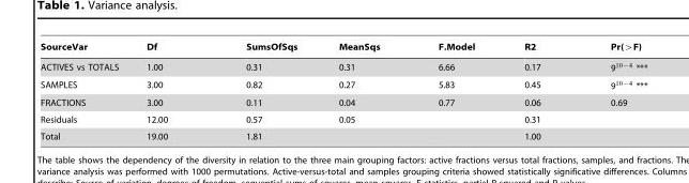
<table><thead><tr><td>SourceVar</td><td>Df</td><td>SumsOfSqs</td><td>MeanSqs</td><td>F.Model</td><td>R2</td><td>Pr(wF)</td></tr></thead><tbody><tr><td>ACTIVES vs TOTALS</td><td>1.00</td><td>0.31</td><td>0.31</td><td>6.66</td><td>0.17</td><td>910{4 ***</td></tr><tr><td>SAMPLES</td><td>3.00</td><td>0.82</td><td>0.27</td><td>5.83</td><td>0.45</td><td>910{4 ***</td></tr><tr><td>FRACTIONS</td><td>3.00</td><td>0.11</td><td>0.04</td><td>0.77</td><td>0.06</td><td>0.69</td></tr><tr><td>Residuals</td><td>12.00</td><td>0.57</td><td>0.05</td><td></td><td>0.31</td><td></td></tr><tr><td>Total</td><td>19.00</td><td>1.81</td><td></td><td></td><td>1.00</td><td></td></tr></tbody></table>